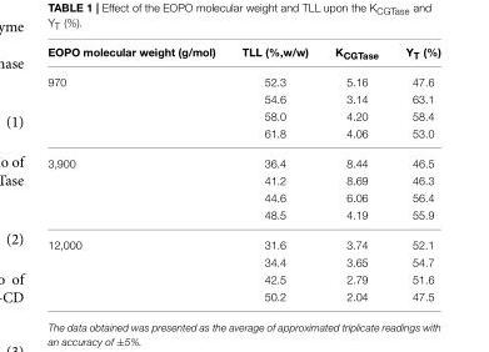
<table><thead><tr><td>EOPO molecular weight (g/mol)</td><td>TLL (%,w/w)</td><td>K<sub>CGTase</sub></td><td>Y<sub>T</sub> (%)</td></tr></thead><tbody><tr><td rowspan="4">970</td><td>52.3</td><td>5.16</td><td>47.6</td></tr><tr><td>54.6</td><td>3.14</td><td>63.1</td></tr><tr><td>58.0</td><td>4.20</td><td>58.4</td></tr><tr><td>61.8</td><td>4.06</td><td>53.0</td></tr><tr><td rowspan="4">3,900</td><td>36.4</td><td>8.44</td><td>46.5</td></tr><tr><td>41.2</td><td>8.69</td><td>46.3</td></tr><tr><td>44.6</td><td>6.06</td><td>56.4</td></tr><tr><td>48.5</td><td>4.19</td><td>55.9</td></tr><tr><td rowspan="4">12,000</td><td>31.6</td><td>3.74</td><td>52.1</td></tr><tr><td>34.4</td><td>3.65</td><td>54.7</td></tr><tr><td>42.5</td><td>2.79</td><td>51.6</td></tr><tr><td>50.2</td><td>2.04</td><td>47.5</td></tr></tbody></table>